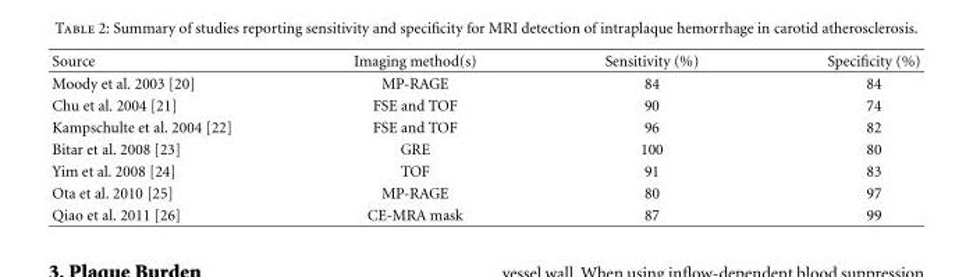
<table><thead><tr><td>Source</td><td>Imaging method(s)</td><td>Sensitivity (%)</td><td>Specificity (%)</td></tr></thead><tbody><tr><td>Moody et al. 2003 [20]</td><td>MP-RAGE</td><td>84</td><td>84</td></tr><tr><td>Chu et al. 2004 [21]</td><td>FSE and TOF</td><td>90</td><td>74</td></tr><tr><td>Kampschulte et al. 2004 [22]</td><td>FSE and TOF</td><td>96</td><td>82</td></tr><tr><td>Bitar et al. 2008 [23]</td><td>GRE</td><td>100</td><td>80</td></tr><tr><td>Yim et al. 2008 [24]</td><td>TOF</td><td>91</td><td>83</td></tr><tr><td>Ota et al. 2010 [25]</td><td>MP-RAGE</td><td>80</td><td>97</td></tr><tr><td>Qiao et al. 2011 [26]</td><td>CE-MRA mask</td><td>87</td><td>99</td></tr></tbody></table>